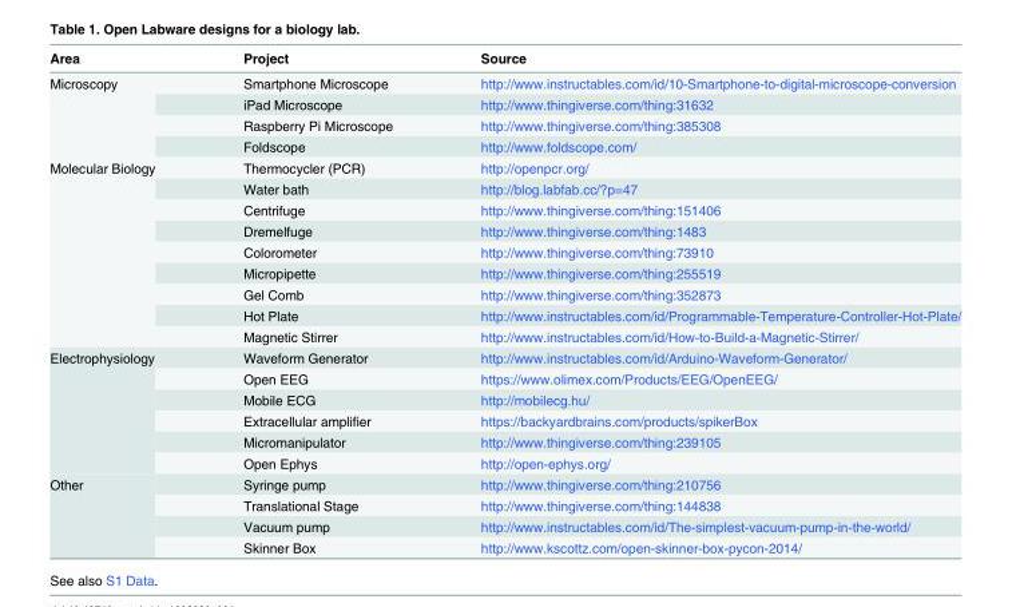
<table><thead><tr><td>Area</td><td>Project</td><td>Source</td></tr></thead><tbody><tr><td rowspan="4">Microscopy</td><td>Smartphone Microscope</td><td>http://www.instructables.com/id/10-Smartphone-to-digital-microscope-conversion</td></tr><tr><td>iPad Microscope</td><td>http://www.thingiverse.com/thing:31632</td></tr><tr><td>Raspberry Pi Microscope</td><td>http://www.thingiverse.com/thing:385308</td></tr><tr><td>Foldscope</td><td>http://www.foldscope.com/</td></tr><tr><td rowspan="9">Molecular Biology</td><td>Thermocycler (PCR)</td><td>http://openpcr.org/</td></tr><tr><td>Water bath</td><td>http://blog.labfab.cc/?p=47</td></tr><tr><td>Centrifuge</td><td>http://www.thingiverse.com/thing:151406</td></tr><tr><td>Dremelfuge</td><td>http://www.thingiverse.com/thing:1483</td></tr><tr><td>Colorometer</td><td>http://www.thingiverse.com/thing:73910</td></tr><tr><td>Micropipette</td><td>http://www.thingiverse.com/thing:255519</td></tr><tr><td>Gel Comb</td><td>http://www.thingiverse.com/thing:352873</td></tr><tr><td>Hot Plate</td><td>http://www.instructables.com/id/Programmable-Temperature-Controller-Hot-Plate/</td></tr><tr><td>Magnetic Stirrer</td><td>http://www.instructables.com/id/How-to-Build-a-Magnetic-Stirrer/</td></tr><tr><td rowspan="6">Electrophysiology</td><td>Waveform Generator</td><td>http://www.instructables.com/id/Arduino-Waveform-Generator/</td></tr><tr><td>Open EEG</td><td>https://www.olimex.com/Products/EEG/OpenEEG/</td></tr><tr><td>Mobile ECG</td><td>http://mobilecg.hu/</td></tr><tr><td>Extracellular amplifier</td><td>https://backyardbrains.com/products/spikerBox</td></tr><tr><td>Micromanipulator</td><td>http://www.thingiverse.com/thing:239105</td></tr><tr><td>Open Ephys</td><td>http://open-ephys.org/</td></tr><tr><td rowspan="4">Other</td><td>Syringe pump</td><td>http://www.thingiverse.com/thing:210756</td></tr><tr><td>Translational Stage</td><td>http://www.thingiverse.com/thing:144838</td></tr><tr><td>Vacuum pump</td><td>http://www.instructables.com/id/The-simplest-vacuum-pump-in-the-world/</td></tr><tr><td>Skinner Box</td><td>http://www.kscottz.com/open-skinner-box-pycon-2014/</td></tr></tbody></table>